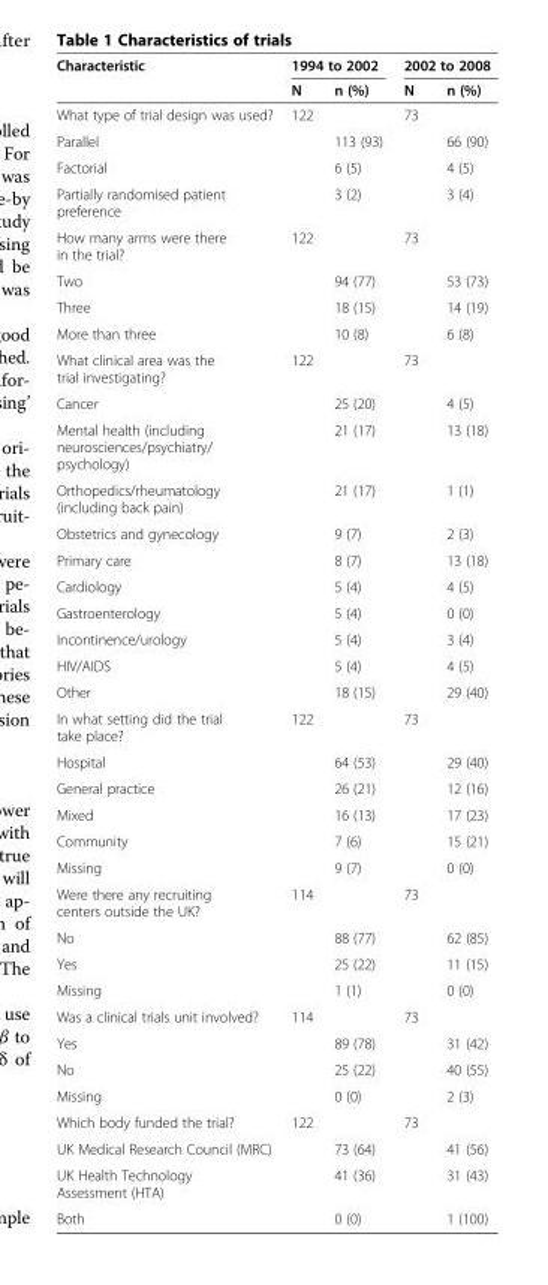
<table><thead><tr><td rowspan="2">Characteristic</td><td colspan="2">1994 to 2002</td><td colspan="2">2002 to 2008</td></tr><tr><td>N</td><td>n (%)</td><td>N</td><td>n (%)</td></tr></thead><tbody><tr><td>What type of trial design was used?</td><td>122</td><td></td><td>73</td><td></td></tr><tr><td>Parallel</td><td></td><td>113 (93)</td><td></td><td>66 (90)</td></tr><tr><td>Factorial</td><td></td><td>6 (5)</td><td></td><td>4 (5)</td></tr><tr><td>Partially randomised patient preference</td><td></td><td>3 (2)</td><td></td><td>3 (4)</td></tr><tr><td>How many arms were there in the trial?</td><td>122</td><td></td><td>73</td><td></td></tr><tr><td>Two</td><td></td><td>94 (77)</td><td></td><td>53 (73)</td></tr><tr><td>Three</td><td></td><td>18 (15)</td><td></td><td>14 (19)</td></tr><tr><td>More than three</td><td></td><td>10 (8)</td><td></td><td>6 (8)</td></tr><tr><td>What clinical area was the trial investigating?</td><td>122</td><td></td><td>73</td><td></td></tr><tr><td>Cancer</td><td></td><td>25 (20)</td><td></td><td>4 (5)</td></tr><tr><td>Mental health (including neurosciences/psychiatry/ psychology)</td><td></td><td>21 (17)</td><td></td><td>13 (18)</td></tr><tr><td>Orthopedics/rheumatology (including back pain)</td><td></td><td>21 (17)</td><td></td><td>1 (1)</td></tr><tr><td>Obstetrics and gynecology</td><td></td><td>9 (7)</td><td></td><td>2 (3)</td></tr><tr><td>Primary care</td><td></td><td>8 (7)</td><td></td><td>13 (18)</td></tr><tr><td>Cardiology</td><td></td><td>5 (4)</td><td></td><td>4 (5)</td></tr><tr><td>Gastroenterology</td><td></td><td>5 (4)</td><td></td><td>0 (0)</td></tr><tr><td>Incontinence/urology</td><td></td><td>5 (4)</td><td></td><td>3 (4)</td></tr><tr><td>HIV/AIDS</td><td></td><td>5 (4)</td><td></td><td>4 (5)</td></tr><tr><td>Other</td><td></td><td>18 (15)</td><td></td><td>29 (40)</td></tr><tr><td>In what setting did the trial take place?</td><td>122</td><td></td><td>73</td><td></td></tr><tr><td>Hospital</td><td></td><td>64 (53)</td><td></td><td>29 (40)</td></tr><tr><td>General practice</td><td></td><td>26 (21)</td><td></td><td>12 (16)</td></tr><tr><td>Mixed</td><td></td><td>16 (13)</td><td></td><td>17 (23)</td></tr><tr><td>Community</td><td></td><td>7 (6)</td><td></td><td>15 (21)</td></tr><tr><td>Missing</td><td></td><td>9 (7)</td><td></td><td>0 (0)</td></tr><tr><td>Were there any recruiting centers outside the UK?</td><td>114</td><td></td><td>73</td><td></td></tr><tr><td>No</td><td></td><td>88 (77)</td><td></td><td>62 (85)</td></tr><tr><td>Yes</td><td></td><td>25 (22)</td><td></td><td>11 (15)</td></tr><tr><td>Missing</td><td></td><td>1 (1)</td><td></td><td>0 (0)</td></tr><tr><td>Was a clinical trials unit involved?</td><td>114</td><td></td><td>73</td><td></td></tr><tr><td>Yes</td><td></td><td>89 (78)</td><td></td><td>31 (42)</td></tr><tr><td>No</td><td></td><td>25 (22)</td><td></td><td>40 (55)</td></tr><tr><td>Missing</td><td></td><td>0 (0)</td><td></td><td>2 (3)</td></tr><tr><td>Which body funded the trial?</td><td>122</td><td></td><td>73</td><td></td></tr><tr><td>UK Medical Research Council (MRC)</td><td></td><td>73 (64)</td><td></td><td>41 (56)</td></tr><tr><td>UK Health Technology Assessment (HTA)</td><td></td><td>41 (36)</td><td></td><td>31 (43)</td></tr><tr><td>Both</td><td></td><td>0 (0)</td><td></td><td>1 (100)</td></tr></tbody></table>